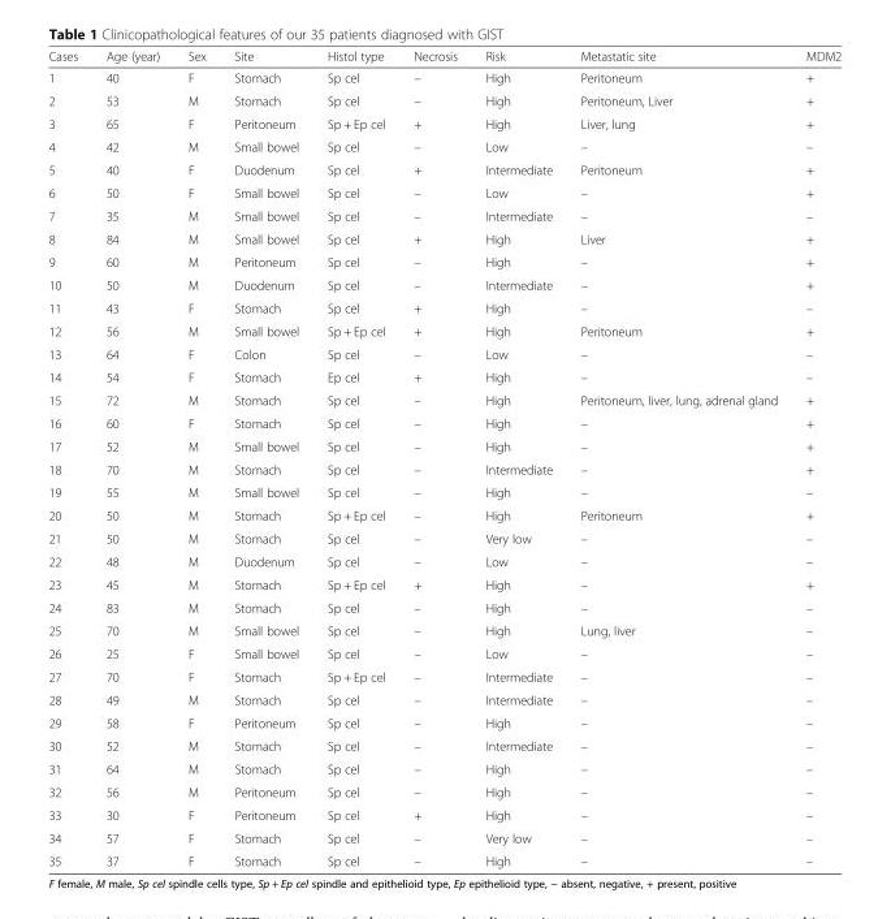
<table><thead><tr><td>Cases</td><td>Age (year)</td><td>Sex</td><td>Site</td><td>Histol type</td><td>Necrosis</td><td>Risk</td><td>Metastatic site</td><td>MDM2</td></tr></thead><tbody><tr><td>1</td><td>40</td><td>F</td><td>Stomach</td><td>Sp cel</td><td>–</td><td>High</td><td>Peritoneum</td><td>+</td></tr><tr><td>2</td><td>53</td><td>M</td><td>Stomach</td><td>Sp cel</td><td>–</td><td>High</td><td>Peritoneum, Liver</td><td>+</td></tr><tr><td>3</td><td>65</td><td>F</td><td>Peritoneum</td><td>Sp + Ep cel</td><td>+</td><td>High</td><td>Liver, lung</td><td>+</td></tr><tr><td>4</td><td>42</td><td>M</td><td>Small bowel</td><td>Sp cel</td><td>–</td><td>Low</td><td>–</td><td>–</td></tr><tr><td>5</td><td>40</td><td>F</td><td>Duodenum</td><td>Sp cel</td><td>+</td><td>Intermediate</td><td>Peritoneum</td><td>+</td></tr><tr><td>6</td><td>50</td><td>F</td><td>Small bowel</td><td>Sp cel</td><td>–</td><td>Low</td><td>–</td><td>+</td></tr><tr><td>7</td><td>35</td><td>M</td><td>Small bowel</td><td>Sp cel</td><td>–</td><td>Intermediate</td><td>–</td><td>–</td></tr><tr><td>8</td><td>84</td><td>M</td><td>Small bowel</td><td>Sp cel</td><td>+</td><td>High</td><td>Liver</td><td>+</td></tr><tr><td>9</td><td>60</td><td>M</td><td>Peritoneum</td><td>Sp cel</td><td>–</td><td>High</td><td>–</td><td>+</td></tr><tr><td>10</td><td>50</td><td>M</td><td>Duodenum</td><td>Sp cel</td><td>–</td><td>Intermediate</td><td>–</td><td>+</td></tr><tr><td>11</td><td>43</td><td>F</td><td>Stomach</td><td>Sp cel</td><td>+</td><td>High</td><td>–</td><td>–</td></tr><tr><td>12</td><td>56</td><td>M</td><td>Small bowel</td><td>Sp + Ep cel</td><td>+</td><td>High</td><td>Peritoneum</td><td>+</td></tr><tr><td>13</td><td>64</td><td>F</td><td>Colon</td><td>Sp cel</td><td>–</td><td>Low</td><td>–</td><td>–</td></tr><tr><td>14</td><td>54</td><td>F</td><td>Stomach</td><td>Ep cel</td><td>+</td><td>High</td><td>–</td><td>–</td></tr><tr><td>15</td><td>72</td><td>M</td><td>Stomach</td><td>Sp cel</td><td>–</td><td>High</td><td>Peritoneum, liver, lung, adrenal gland</td><td>+</td></tr><tr><td>16</td><td>60</td><td>F</td><td>Stomach</td><td>Sp cel</td><td>–</td><td>High</td><td>–</td><td>+</td></tr><tr><td>17</td><td>52</td><td>M</td><td>Small bowel</td><td>Sp cel</td><td>–</td><td>High</td><td>–</td><td>+</td></tr><tr><td>18</td><td>70</td><td>M</td><td>Stomach</td><td>Sp cel</td><td>–</td><td>Intermediate</td><td>–</td><td>+</td></tr><tr><td>19</td><td>55</td><td>M</td><td>Small bowel</td><td>Sp cel</td><td>–</td><td>High</td><td>–</td><td>–</td></tr><tr><td>20</td><td>50</td><td>M</td><td>Stomach</td><td>Sp + Ep cel</td><td>–</td><td>High</td><td>Peritoneum</td><td>+</td></tr><tr><td>21</td><td>50</td><td>M</td><td>Stomach</td><td>Sp cel</td><td>–</td><td>Very low</td><td>–</td><td>–</td></tr><tr><td>22</td><td>48</td><td>M</td><td>Duodenum</td><td>Sp cel</td><td>–</td><td>Low</td><td>–</td><td>–</td></tr><tr><td>23</td><td>45</td><td>M</td><td>Stomach</td><td>Sp + Ep cel</td><td>+</td><td>High</td><td>–</td><td>+</td></tr><tr><td>24</td><td>83</td><td>M</td><td>Stomach</td><td>Sp cel</td><td>–</td><td>High</td><td>–</td><td>–</td></tr><tr><td>25</td><td>70</td><td>M</td><td>Small bowel</td><td>Sp cel</td><td>–</td><td>High</td><td>Lung, liver</td><td>–</td></tr><tr><td>26</td><td>25</td><td>F</td><td>Small bowel</td><td>Sp cel</td><td>–</td><td>Low</td><td>–</td><td>–</td></tr><tr><td>27</td><td>70</td><td>F</td><td>Stomach</td><td>Sp + Ep cel</td><td>–</td><td>Intermediate</td><td>–</td><td>–</td></tr><tr><td>28</td><td>49</td><td>M</td><td>Stomach</td><td>Sp cel</td><td>–</td><td>Intermediate</td><td>–</td><td>–</td></tr><tr><td>29</td><td>58</td><td>F</td><td>Peritoneum</td><td>Sp cel</td><td>–</td><td>High</td><td>–</td><td>–</td></tr><tr><td>30</td><td>52</td><td>M</td><td>Stomach</td><td>Sp cel</td><td>–</td><td>Intermediate</td><td>–</td><td>–</td></tr><tr><td>31</td><td>64</td><td>M</td><td>Stomach</td><td>Sp cel</td><td>–</td><td>High</td><td>–</td><td>–</td></tr><tr><td>32</td><td>56</td><td>M</td><td>Peritoneum</td><td>Sp cel</td><td>–</td><td>High</td><td>–</td><td>–</td></tr><tr><td>33</td><td>30</td><td>F</td><td>Peritoneum</td><td>Sp cel</td><td>+</td><td>High</td><td>–</td><td>–</td></tr><tr><td>34</td><td>57</td><td>F</td><td>Stomach</td><td>Sp cel</td><td>–</td><td>Very low</td><td>–</td><td>–</td></tr><tr><td>35</td><td>37</td><td>F</td><td>Stomach</td><td>Sp cel</td><td>–</td><td>High</td><td>–</td><td>–</td></tr></tbody></table>